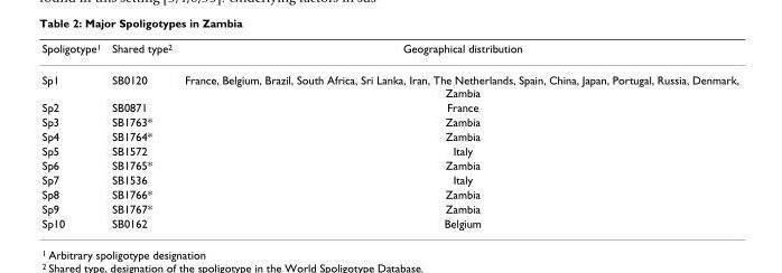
<table><thead><tr><td>Spoligotype<sup>1</sup></td><td>Shared type<sup>2</sup></td><td>Geographical distribution</td></tr></thead><tbody><tr><td>Sp1</td><td>SB0120</td><td>France, Belgium, Brazil, South Africa, Sri Lanka, Iran, The Netherlands, Spain, China, Japan, Portugal, Russia, Denmark, Zambia</td></tr><tr><td>Sp2</td><td>SB0871</td><td>France</td></tr><tr><td>Sp3</td><td>SB1763*</td><td>Zambia</td></tr><tr><td>Sp4</td><td>SB1764*</td><td>Zambia</td></tr><tr><td>Sp5</td><td>SB1572</td><td>Italy</td></tr><tr><td>Sp6</td><td>SB1765*</td><td>Zambia</td></tr><tr><td>Sp7</td><td>SB1536</td><td>Italy</td></tr><tr><td>Sp8</td><td>SB1766*</td><td>Zambia</td></tr><tr><td>Sp9</td><td>SB1767*</td><td>Zambia</td></tr><tr><td>Sp10</td><td>SB0162</td><td>Belgium</td></tr></tbody></table>